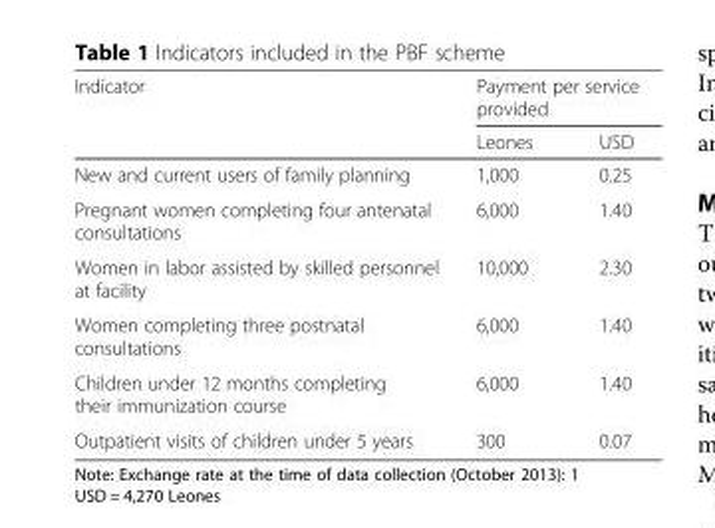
<table><thead><tr><td rowspan="2">Indicator</td><td colspan="2">Payment per service provided</td></tr><tr><td>Leones</td><td>USD</td></tr></thead><tbody><tr><td>New and current users of family planning</td><td>1,000</td><td>0.25</td></tr><tr><td>Pregnant women completing four antenatal consultations</td><td>6,000</td><td>1.40</td></tr><tr><td>Women in labor assisted by skilled personnel at facility</td><td>10,000</td><td>2.30</td></tr><tr><td>Women completing three postnatal consultations</td><td>6,000</td><td>1.40</td></tr><tr><td>Children under 12 months completing their immunization course</td><td>6,000</td><td>1.40</td></tr><tr><td>Outpatient visits of children under 5 years</td><td>300</td><td>0.07</td></tr></tbody></table>